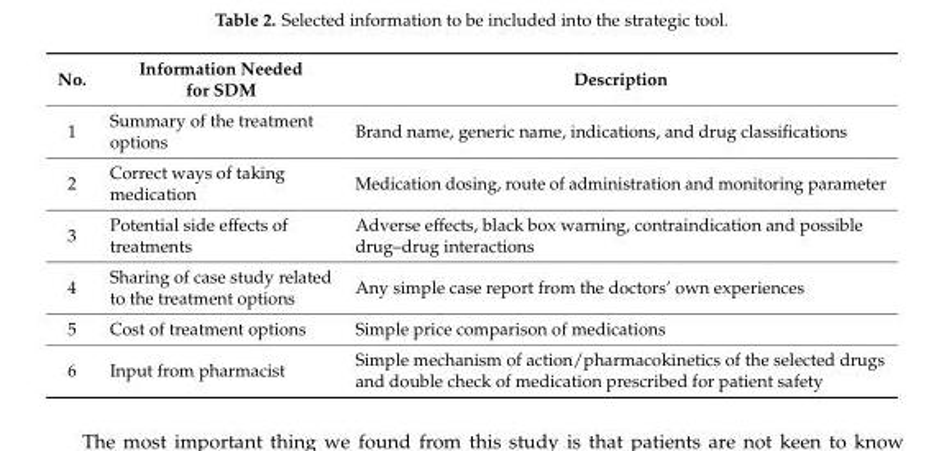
<table><thead><tr><td>No.</td><td>Information Needed for SDM</td><td>Description</td></tr></thead><tbody><tr><td>1</td><td>Summary of the treatment options</td><td>Brand name, generic name, indications, and drug classifications</td></tr><tr><td>2</td><td>Correct ways of taking medication</td><td>Medication dosing, route of administration and monitoring parameter</td></tr><tr><td>3</td><td>Potential side effects of treatments</td><td>Adverse effects, black box warning, contraindication and possible drug–drug interactions</td></tr><tr><td>4</td><td>Sharing of case study related to the treatment options</td><td>Any simple case report from the doctors’ own experiences</td></tr><tr><td>5</td><td>Cost of treatment options</td><td>Simple price comparison of medications</td></tr><tr><td>6</td><td>Input from pharmacist</td><td>Simple mechanism of action/pharmacokinetics of the selected drugs and double check of medication prescribed for patient safety</td></tr></tbody></table>